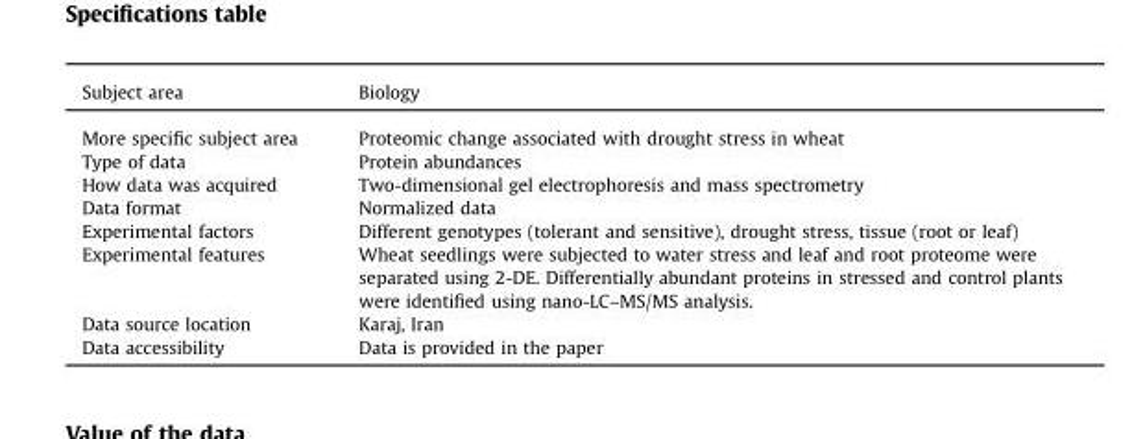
<table><tbody><tr><td>Subject area</td><td>Biology</td></tr><tr><td>More specific subject area</td><td>Proteomic change associated with drought stress in wheat</td></tr><tr><td>Type of data</td><td>Protein abundances</td></tr><tr><td>How data was acquired</td><td>Two-dimensional gel electrophoresis and mass spectrometry</td></tr><tr><td>Data format</td><td>Normalized data</td></tr><tr><td>Experimental factors</td><td>Different genotypes (tolerant and sensitive), drought stress, tissue (root or leaf)</td></tr><tr><td>Experimental features</td><td>Wheat seedlings were subjected to water stress and leaf and root proteome were separated using 2-DE. Differentially abundant proteins in stressed and control plants were identified using nano-LC–MS/MS analysis.</td></tr><tr><td>Data source location</td><td>Karaj, Iran</td></tr><tr><td>Data accessibility</td><td>Data is provided in the paper</td></tr></tbody></table>